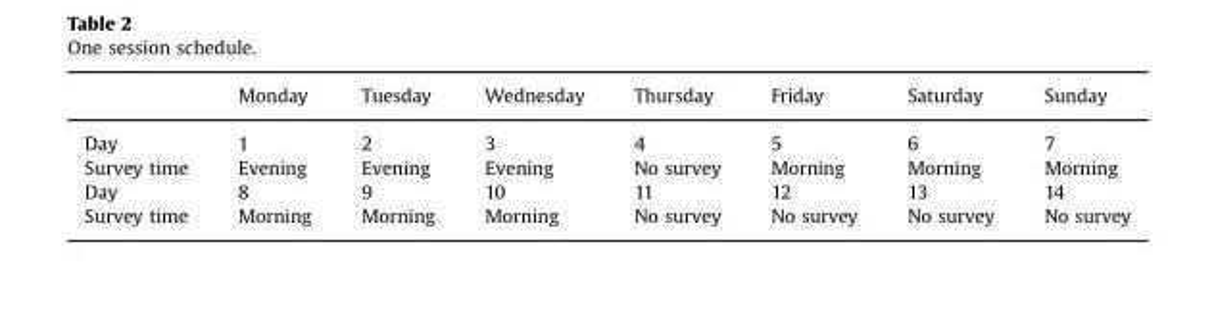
<table><thead><tr><td></td><td>Monday</td><td>Tuesday</td><td>Wednesday</td><td>Thursday</td><td>Friday</td><td>Saturday</td><td>Sunday</td></tr></thead><tbody><tr><td>Day</td><td>1</td><td>2</td><td>3</td><td>4</td><td>5</td><td>6</td><td>7</td></tr><tr><td>Survey time</td><td>Evening</td><td>Evening</td><td>Evening</td><td>No survey</td><td>Morning</td><td>Morning</td><td>Morning</td></tr><tr><td>Day</td><td>8</td><td>9</td><td>10</td><td>11</td><td>12</td><td>13</td><td>14</td></tr><tr><td>Survey time</td><td>Morning</td><td>Morning</td><td>Morning</td><td>No survey</td><td>No survey</td><td>No survey</td><td>No survey</td></tr></tbody></table>